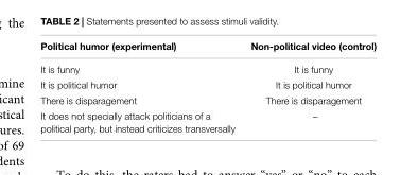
<table><thead><tr><td>Political humor (experimental)</td><td>Non-political video (control)</td></tr></thead><tbody><tr><td>It is funny</td><td>It is funny</td></tr><tr><td>It is political humor</td><td>It is political humor</td></tr><tr><td>There is disparagement</td><td>There is disparagement</td></tr><tr><td>It does not specially attack politicians of a political party, but instead criticizes transversally</td><td>–</td></tr></tbody></table>